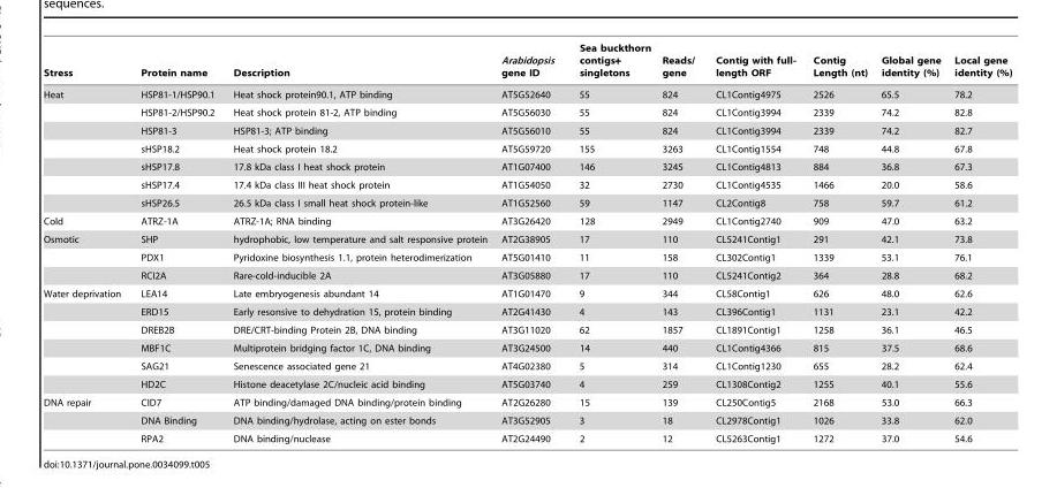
<table><thead><tr><td>Stress</td><td>Protein name</td><td>Description</td><td>Arabidopsis gene ID</td><td>Sea buckthorn contigs+ singletons</td><td>Reads/ gene</td><td>Contig with full- length ORF</td><td>Contig Length (nt)</td><td>Global gene identity (%)</td><td>Local gene identity (%)</td></tr></thead><tbody><tr><td rowspan="7">Heat</td><td>HSP81-1/HSP90.1</td><td>Heat shock protein90.1, ATP binding</td><td>AT5G52640</td><td>55</td><td>824</td><td>CL1Contig4975</td><td>2526</td><td>65.5</td><td>78.2</td></tr><tr><td>HSP81-2/HSP90.2</td><td>Heat shock protein 81-2, ATP binding</td><td>AT5G56030</td><td>55</td><td>824</td><td>CL1Contig3994</td><td>2339</td><td>74.2</td><td>82.8</td></tr><tr><td>HSP81-3</td><td>HSP81-3; ATP binding</td><td>AT5G56010</td><td>55</td><td>824</td><td>CL1Contig3994</td><td>2339</td><td>74.2</td><td>82.7</td></tr><tr><td>sHSP18.2</td><td>Heat shock protein 18.2</td><td>AT5G59720</td><td>155</td><td>3263</td><td>CL1Contig1554</td><td>748</td><td>44.8</td><td>67.8</td></tr><tr><td>sHSP17.8</td><td>17.8 kDa class I heat shock protein</td><td>AT1G07400</td><td>146</td><td>3245</td><td>CL1Contig4813</td><td>884</td><td>36.8</td><td>67.3</td></tr><tr><td>sHSP17.4</td><td>17.4 kDa class III heat shock protein</td><td>AT1G54050</td><td>32</td><td>2730</td><td>CL1Contig4535</td><td>1466</td><td>20.0</td><td>58.6</td></tr><tr><td>sHSP26.5</td><td>26.5 kDa class I small heat shock protein-like</td><td>AT1G52560</td><td>59</td><td>1147</td><td>CL2Contig8</td><td>758</td><td>59.7</td><td>61.2</td></tr><tr><td>Cold</td><td>ATRZ-1A</td><td>ATRZ-1A; RNA binding</td><td>AT3G26420</td><td>128</td><td>2949</td><td>CL1Contig2740</td><td>909</td><td>47.0</td><td>63.2</td></tr><tr><td rowspan="3">Osmotic</td><td>SHP</td><td>hydrophobic, low temperature and salt responsive protein</td><td>AT2G38905</td><td>17</td><td>110</td><td>CL5241Contig1</td><td>291</td><td>42.1</td><td>73.8</td></tr><tr><td>PDX1</td><td>Pyridoxine biosynthesis 1.1, protein heterodimerization</td><td>AT5G01410</td><td>11</td><td>158</td><td>CL302Contig1</td><td>1339</td><td>53.1</td><td>76.1</td></tr><tr><td>RCI2A</td><td>Rare-cold-inducible 2A</td><td>AT3G05880</td><td>17</td><td>110</td><td>CL5241Contig2</td><td>364</td><td>28.8</td><td>68.2</td></tr><tr><td rowspan="6">Water deprivation</td><td>LEA14</td><td>Late embryogenesis abundant 14</td><td>AT1G01470</td><td>9</td><td>344</td><td>CL58Contig1</td><td>626</td><td>48.0</td><td>62.6</td></tr><tr><td>ERD15</td><td>Early resonsive to dehydration 15, protein binding</td><td>AT2G41430</td><td>4</td><td>143</td><td>CL396Contig1</td><td>1131</td><td>23.1</td><td>42.2</td></tr><tr><td>DREB2B</td><td>DRE/CRT-binding Protein 2B, DNA binding</td><td>AT3G11020</td><td>62</td><td>1857</td><td>CL1891Contig1</td><td>1258</td><td>36.1</td><td>46.5</td></tr><tr><td>MBF1C</td><td>Multiprotein bridging factor 1C, DNA binding</td><td>AT3G24500</td><td>14</td><td>440</td><td>CL1Contig4366</td><td>815</td><td>37.5</td><td>68.6</td></tr><tr><td>SAG21</td><td>Senescence associated gene 21</td><td>AT4G02380</td><td>5</td><td>314</td><td>CL1Contig1230</td><td>655</td><td>28.2</td><td>62.4</td></tr><tr><td>HD2C</td><td>Histone deacetylase 2C/nucleic acid binding</td><td>AT5G03740</td><td>4</td><td>259</td><td>CL1308Contig2</td><td>1255</td><td>40.1</td><td>55.6</td></tr><tr><td rowspan="3">DNA repair</td><td>CID7</td><td>ATP binding/damaged DNA binding/protein binding</td><td>AT2G26280</td><td>15</td><td>139</td><td>CL250Contig5</td><td>2168</td><td>53.0</td><td>66.3</td></tr><tr><td>DNA Binding</td><td>DNA binding/hydrolase, acting on ester bonds</td><td>AT3G52905</td><td>3</td><td>18</td><td>CL2978Contig1</td><td>1026</td><td>33.8</td><td>62.0</td></tr><tr><td>RPA2</td><td>DNA binding/nuclease</td><td>AT2G24490</td><td>2</td><td>12</td><td>CL5263Contig1</td><td>1272</td><td>37.0</td><td>54.6</td></tr></tbody></table>